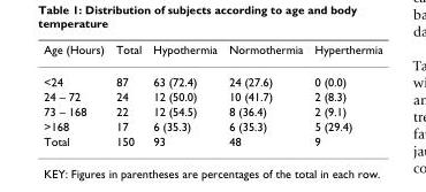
<table><thead><tr><td>Age (Hours)</td><td>Total</td><td>Hypothermia</td><td>Normothermia</td><td>Hyperthermia</td></tr></thead><tbody><tr><td>&lt;24</td><td>87</td><td>63 (72.4)</td><td>24 (27.6)</td><td>0 (0.0)</td></tr><tr><td>24 – 72</td><td>24</td><td>12 (50.0)</td><td>10 (41.7)</td><td>2 (8.3)</td></tr><tr><td>73 – 168</td><td>22</td><td>12 (54.5)</td><td>8 (36.4)</td><td>2 (9.1)</td></tr><tr><td>&gt;168</td><td>17</td><td>6 (35.3)</td><td>6 (35.3)</td><td>5 (29.4)</td></tr><tr><td>Total</td><td>150</td><td>93</td><td>48</td><td>9</td></tr></tbody></table>